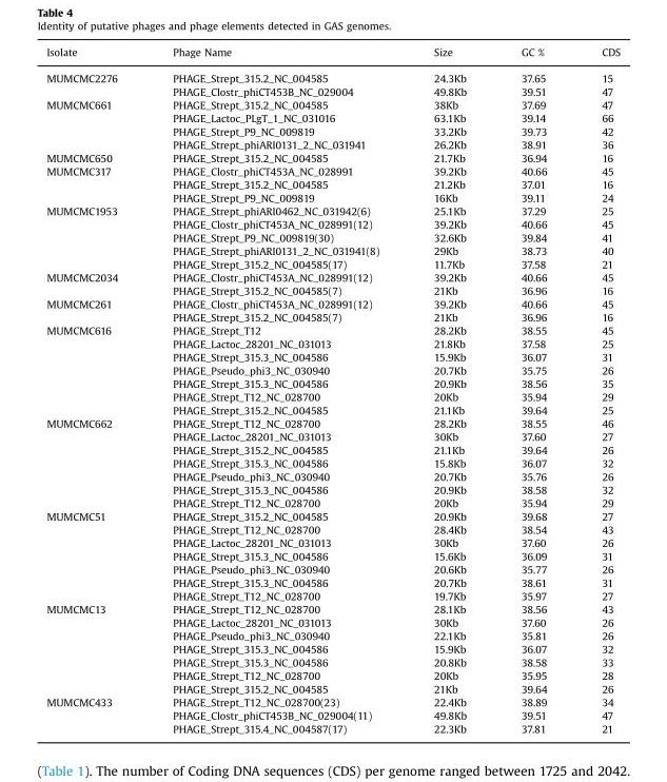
<table><thead><tr><td>Isolate</td><td>Phage Name</td><td>Size</td><td>GC %</td><td>CDS</td></tr></thead><tbody><tr><td rowspan="2">MUMCMC2276</td><td>PHAGE_Strept_315.2_NC_004585</td><td>24.3Kb</td><td>37.65</td><td>15</td></tr><tr><td>PHAGE_Clostr_phiCT453B_NC_029004</td><td>49.8Kb</td><td>39.51</td><td>47</td></tr><tr><td rowspan="4">MUMCMC661</td><td>PHAGE_Strept_315.2_NC_004585</td><td>38Kb</td><td>37.69</td><td>47</td></tr><tr><td>PHAGE_Lactoc_PLgT_1_NC_031016</td><td>63.1Kb</td><td>39.14</td><td>66</td></tr><tr><td>PHAGE_Strept_P9_NC_009819</td><td>33.2Kb</td><td>39.73</td><td>42</td></tr><tr><td>PHAGE_Strept_phiARI0131_2_NC_031941</td><td>26.2Kb</td><td>38.91</td><td>36</td></tr><tr><td>MUMCMC650</td><td>PHAGE_Strept_315.2_NC_004585</td><td>21.7Kb</td><td>36.94</td><td>16</td></tr><tr><td rowspan="3">MUMCMC317</td><td>PHAGE_Clostr_phiCT453A_NC_028991</td><td>39.2Kb</td><td>40.66</td><td>45</td></tr><tr><td>PHAGE_Strept_315.2_NC_004585</td><td>21.2Kb</td><td>37.01</td><td>16</td></tr><tr><td>PHAGE_Strept_P9_NC_009819</td><td>16Kb</td><td>39.11</td><td>24</td></tr><tr><td rowspan="5">MUMCMC1953</td><td>PHAGE_Strept_phiARI0462_NC_031942(6)</td><td>25.1Kb</td><td>37.29</td><td>25</td></tr><tr><td>PHAGE_Clostr_phiCT453A_NC_028991(12)</td><td>39.2Kb</td><td>40.66</td><td>45</td></tr><tr><td>PHAGE_Strept_P9_NC_009819(30)</td><td>32.6Kb</td><td>39.84</td><td>41</td></tr><tr><td>PHAGE_Strept_phiARI0131_2_NC_031941(8)</td><td>29Kb</td><td>38.73</td><td>40</td></tr><tr><td>PHAGE_Strept_315.2_NC_004585(17)</td><td>11.7Kb</td><td>37.58</td><td>21</td></tr><tr><td rowspan="2">MUMCMC2034</td><td>PHAGE_Clostr_phiCT453A_NC_028991(12)</td><td>39.2Kb</td><td>40.66</td><td>45</td></tr><tr><td>PHAGE_Strept_315.2_NC_004585(7)</td><td>21Kb</td><td>36.96</td><td>16</td></tr><tr><td rowspan="2">MUMCMC261</td><td>PHAGE_Clostr_phiCT453A_NC_028991(12)</td><td>39.2Kb</td><td>40.66</td><td>45</td></tr><tr><td>PHAGE_Strept_315.2_NC_004585(7)</td><td>21Kb</td><td>36.96</td><td>16</td></tr><tr><td rowspan="7">MUMCMC616</td><td>PHAGE_Strept_T12</td><td>28.2Kb</td><td>38.55</td><td>45</td></tr><tr><td>PHAGE_Lactoc_28201_NC_031013</td><td>21.8Kb</td><td>37.58</td><td>25</td></tr><tr><td>PHAGE_Strept_315.3_NC_004586</td><td>15.9Kb</td><td>36.07</td><td>31</td></tr><tr><td>PHAGE_Pseudo_phi3_NC_030940</td><td>20.7Kb</td><td>35.75</td><td>26</td></tr><tr><td>PHAGE_Strept_315.3_NC_004586</td><td>20.9Kb</td><td>38.56</td><td>35</td></tr><tr><td>PHAGE_Strept_T12_NC_028700</td><td>20Kb</td><td>35.94</td><td>29</td></tr><tr><td>PHAGE_Strept_315.2_NC_004585</td><td>21.1Kb</td><td>39.64</td><td>25</td></tr><tr><td rowspan="7">MUMCMC662</td><td>PHAGE_Strept_T12_NC_028700</td><td>28.2Kb</td><td>38.55</td><td>46</td></tr><tr><td>PHAGE_Lactoc_28201_NC_031013</td><td>30Kb</td><td>37.60</td><td>27</td></tr><tr><td>PHAGE_Strept_315.2_NC_004585</td><td>21.1Kb</td><td>39.64</td><td>26</td></tr><tr><td>PHAGE_Strept_315.3_NC_004586</td><td>15.8Kb</td><td>36.07</td><td>32</td></tr><tr><td>PHAGE_Pseudo_phi3_NC_030940</td><td>20.7Kb</td><td>35.76</td><td>26</td></tr><tr><td>PHAGE_Strept_315.3_NC_004586</td><td>20.9Kb</td><td>38.58</td><td>32</td></tr><tr><td>PHAGE_Strept_T12_NC_028700</td><td>20Kb</td><td>35.94</td><td>29</td></tr><tr><td rowspan="7">MUMCMC51</td><td>PHAGE_Strept_315.2_NC_004585</td><td>20.9Kb</td><td>39.68</td><td>27</td></tr><tr><td>PHAGE_Strept_T12_NC_028700</td><td>28.4Kb</td><td>38.54</td><td>43</td></tr><tr><td>PHAGE_Lactoc_28201_NC_031013</td><td>30Kb</td><td>37.60</td><td>26</td></tr><tr><td>PHAGE_Strept_315.3_NC_004586</td><td>15.6Kb</td><td>36.09</td><td>31</td></tr><tr><td>PHAGE_Pseudo_phi3_NC_030940</td><td>20.6Kb</td><td>35.77</td><td>26</td></tr><tr><td>PHAGE_Strept_315.3_NC_004586</td><td>20.7Kb</td><td>38.61</td><td>31</td></tr><tr><td>PHAGE_Strept_T12_NC_028700</td><td>19.7Kb</td><td>35.97</td><td>27</td></tr><tr><td rowspan="7">MUMCMC13</td><td>PHAGE_Strept_T12_NC_028700</td><td>28.1Kb</td><td>38.56</td><td>43</td></tr><tr><td>PHAGE_Lactoc_28201_NC_031013</td><td>30Kb</td><td>37.60</td><td>26</td></tr><tr><td>PHAGE_Pseudo_phi3_NC_030940</td><td>22.1Kb</td><td>35.81</td><td>26</td></tr><tr><td>PHAGE_Strept_315.3_NC_004586</td><td>15.9Kb</td><td>36.07</td><td>32</td></tr><tr><td>PHAGE_Strept_315.3_NC_004586</td><td>20.8Kb</td><td>38.58</td><td>33</td></tr><tr><td>PHAGE_Strept_T12_NC_028700</td><td>20Kb</td><td>35.95</td><td>28</td></tr><tr><td>PHAGE_Strept_315.2_NC_004585</td><td>21Kb</td><td>39.64</td><td>26</td></tr><tr><td rowspan="3">MUMCMC433</td><td>PHAGE_Strept_T12_NC_028700(23)</td><td>22.4Kb</td><td>38.89</td><td>34</td></tr><tr><td>PHAGE_Clostr_phiCT453B_NC_029004(11)</td><td>49.8Kb</td><td>39.51</td><td>47</td></tr><tr><td>PHAGE_Strept_315.4_NC_004587(17)</td><td>22.3Kb</td><td>37.81</td><td>21</td></tr></tbody></table>